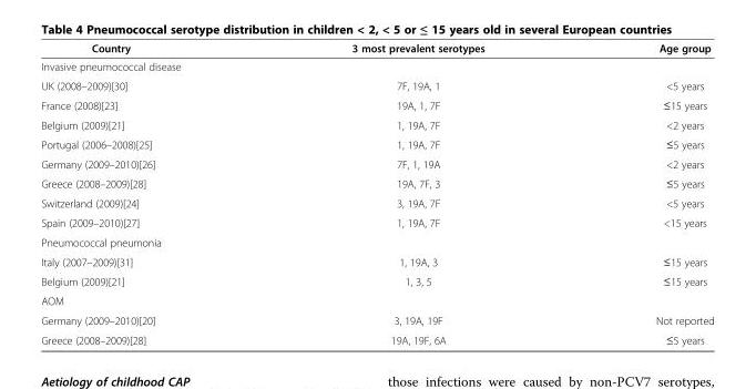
<table><thead><tr><td>Country</td><td>3 most prevalent serotypes</td><td>Age group</td></tr></thead><tbody><tr><td colspan="3">Invasive pneumococcal disease</td></tr><tr><td>UK (2008–2009)[30]</td><td>7F, 19A, 1</td><td>&lt;5 years</td></tr><tr><td>France (2008)[23]</td><td>19A, 1, 7F</td><td>≤15 years</td></tr><tr><td>Belgium (2009)[21]</td><td>1, 19A, 7F</td><td>&lt;2 years</td></tr><tr><td>Portugal (2006–2008)[25]</td><td>1, 19A, 7F</td><td>≤5 years</td></tr><tr><td>Germany (2009–2010)[26]</td><td>7F, 1, 19A</td><td>&lt;2 years</td></tr><tr><td>Greece (2008–2009)[28]</td><td>19A, 7F, 3</td><td>≤5 years</td></tr><tr><td>Switzerland (2009)[24]</td><td>3, 19A, 7F</td><td>&lt;5 years</td></tr><tr><td>Spain (2009–2010)[27]</td><td>1, 19A, 7F</td><td>&lt;15 years</td></tr><tr><td colspan="3">Pneumococcal pneumonia</td></tr><tr><td>Italy (2007–2009)[31]</td><td>1, 19A, 3</td><td>≤15 years</td></tr><tr><td>Belgium (2009)[21]</td><td>1, 3, 5</td><td>≤15 years</td></tr><tr><td colspan="3">AOM</td></tr><tr><td>Germany (2009–2010)[20]</td><td>3, 19A, 19F</td><td>Not reported</td></tr><tr><td>Greece (2008–2009)[28]</td><td>19A, 19F, 6A</td><td>≤5 years</td></tr></tbody></table>